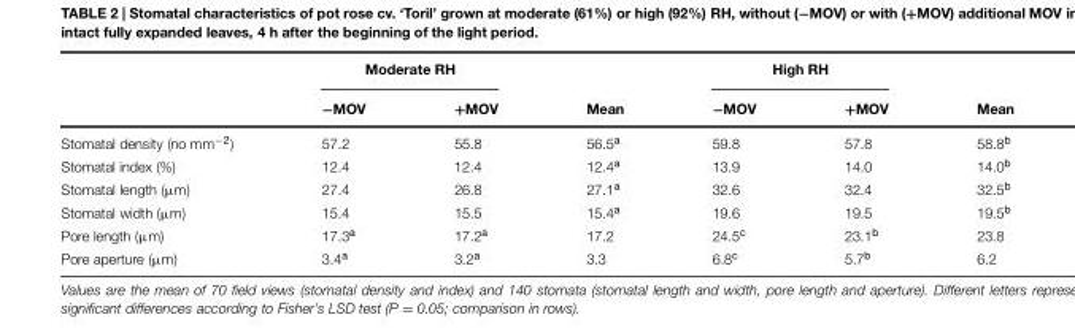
<table><thead><tr><td rowspan="2"></td><td colspan="2">Moderate RH</td><td rowspan="2">Mean</td><td colspan="2">High RH</td><td rowspan="2">Mean</td></tr><tr><td>−MOV</td><td>+MOV</td><td>−MOV</td><td>+MOV</td></tr></thead><tbody><tr><td>Stomatal density (no mm<sup>−2</sup>)</td><td>57.2</td><td>55.8</td><td>56.5<sup>a</sup></td><td>59.8</td><td>57.8</td><td>58.8<sup>b</sup></td></tr><tr><td>Stomatal index (%)</td><td>12.4</td><td>12.4</td><td>12.4<sup>a</sup></td><td>13.9</td><td>14.0</td><td>14.0<sup>b</sup></td></tr><tr><td>Stomatal length (µm)</td><td>27.4</td><td>26.8</td><td>27.1<sup>a</sup></td><td>32.6</td><td>32.4</td><td>32.5<sup>b</sup></td></tr><tr><td>Stomatal width (µm)</td><td>15.4</td><td>15.5</td><td>15.4<sup>a</sup></td><td>19.6</td><td>19.5</td><td>19.5<sup>b</sup></td></tr><tr><td>Pore length (µm)</td><td>17.3<sup>a</sup></td><td>17.2<sup>a</sup></td><td>17.2</td><td>24.5<sup>c</sup></td><td>23.1<sup>b</sup></td><td>23.8</td></tr><tr><td>Pore aperture (µm)</td><td>3.4<sup>a</sup></td><td>3.2<sup>a</sup></td><td>3.3</td><td>6.8<sup>c</sup></td><td>5.7<sup>b</sup></td><td>6.2</td></tr></tbody></table>